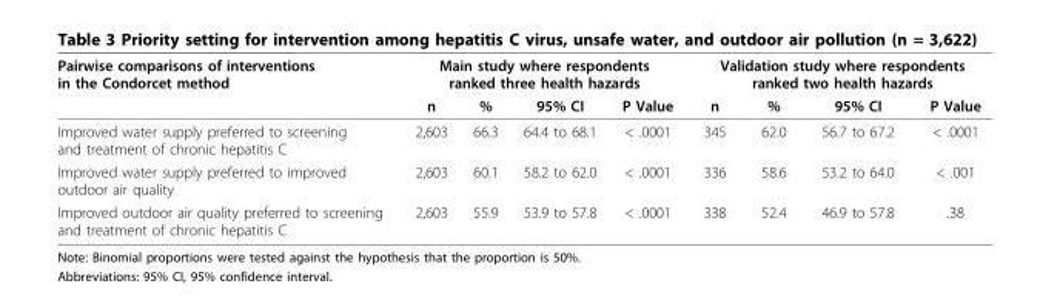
<table><thead><tr><td rowspan="2">Pairwise comparisons of interventions in the Condorcet method</td><td colspan="4">Main study where respondents ranked three health hazards</td><td colspan="4">Validation study where respondents ranked two health hazards</td></tr><tr><td>n</td><td>%</td><td>95% CI</td><td>P Value</td><td>n</td><td>%</td><td>95% CI</td><td>P Value</td></tr></thead><tbody><tr><td>Improved water supply preferred to screening and treatment of chronic hepatitis C</td><td>2,603</td><td>66.3</td><td>64.4 to 68.1</td><td>&lt; .0001</td><td>345</td><td>62.0</td><td>56.7 to 67.2</td><td>&lt; .0001</td></tr><tr><td>Improved water supply preferred to improved outdoor air quality</td><td>2,603</td><td>60.1</td><td>58.2 to 62.0</td><td>&lt; .0001</td><td>336</td><td>58.6</td><td>53.2 to 64.0</td><td>&lt; .001</td></tr><tr><td>Improved outdoor air quality preferred to screening and treatment of chronic hepatitis C</td><td>2,603</td><td>55.9</td><td>53.9 to 57.8</td><td>&lt; .0001</td><td>338</td><td>52.4</td><td>46.9 to 57.8</td><td>.38</td></tr></tbody></table>